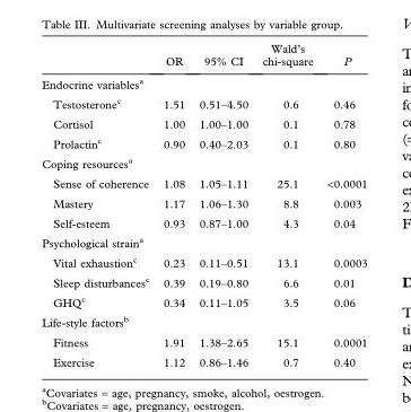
<table><thead><tr><td></td><td>OR</td><td>95% CI</td><td>Wald’s chi-square</td><td>P</td></tr></thead><tbody><tr><td colspan="5">Endocrine variables<sup>a</sup></td></tr><tr><td>Testosterone<sup>c</sup></td><td>1.51</td><td>0.51–4.50</td><td>0.6</td><td>0.46</td></tr><tr><td>Cortisol</td><td>1.00</td><td>1.00–1.00</td><td>0.1</td><td>0.78</td></tr><tr><td>Prolactin<sup>c</sup></td><td>0.90</td><td>0.40–2.03</td><td>0.1</td><td>0.80</td></tr><tr><td colspan="5">Coping resources<sup>a</sup></td></tr><tr><td>Sense of coherence</td><td>1.08</td><td>1.05–1.11</td><td>25.1</td><td>&lt;0.0001</td></tr><tr><td>Mastery</td><td>1.17</td><td>1.06–1.30</td><td>8.8</td><td>0.003</td></tr><tr><td>Self-esteem</td><td>0.93</td><td>0.87–1.00</td><td>4.3</td><td>0.04</td></tr><tr><td colspan="5">Psychological strain<sup>a</sup></td></tr><tr><td>Vital exhaustion<sup>c</sup></td><td>0.23</td><td>0.11–0.51</td><td>13.1</td><td>0.0003</td></tr><tr><td>Sleep disturbances<sup>c</sup></td><td>0.39</td><td>0.19–0.80</td><td>6.6</td><td>0.01</td></tr><tr><td>GHQ<sup>c</sup></td><td>0.34</td><td>0.11–1.05</td><td>3.5</td><td>0.06</td></tr><tr><td colspan="5">Life-style factors<sup>b</sup></td></tr><tr><td>Fitness</td><td>1.91</td><td>1.38–2.65</td><td>15.1</td><td>0.0001</td></tr><tr><td>Exercise</td><td>1.12</td><td>0.86–1.46</td><td>0.7</td><td>0.40</td></tr></tbody></table>